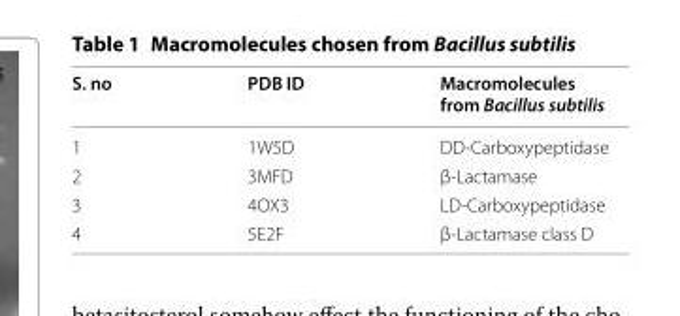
<table><thead><tr><td>S. no</td><td>PDB ID</td><td>Macromolecules from Bacillus subtilis</td></tr></thead><tbody><tr><td>1</td><td>1W5D</td><td>DD-Carboxypeptidase</td></tr><tr><td>2</td><td>3MFD</td><td>β-Lactamase</td></tr><tr><td>3</td><td>4OX3</td><td>LD-Carboxypeptidase</td></tr><tr><td>4</td><td>5E2F</td><td>β-Lactamase class D</td></tr></tbody></table>